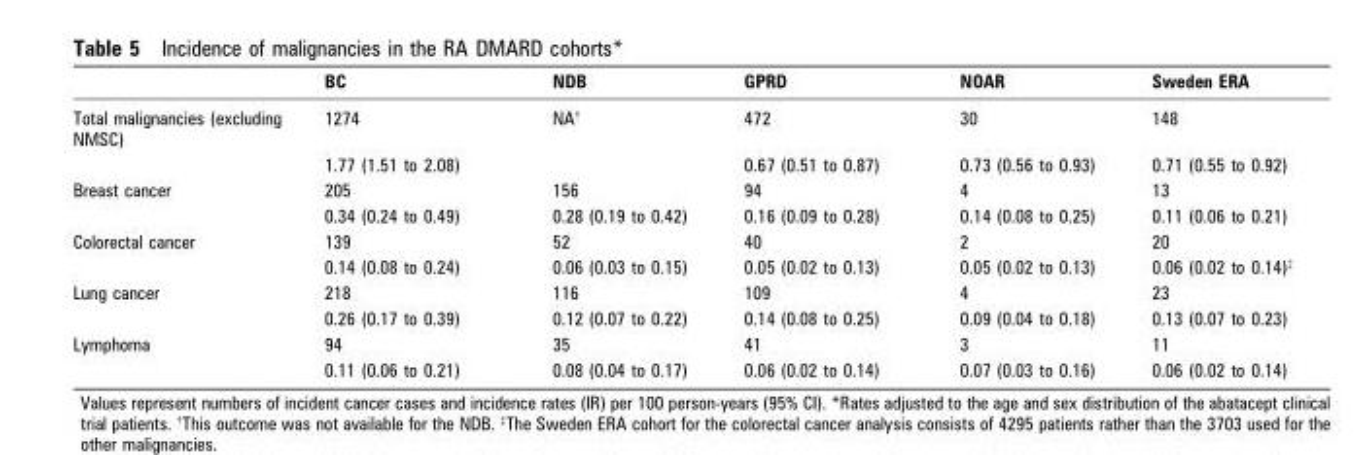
<table><thead><tr><td></td><td>BC</td><td>NDB</td><td>GPRD</td><td>NOAR</td><td>Sweden ERA</td></tr></thead><tbody><tr><td rowspan="2">Total malignancies (excluding NMSC)</td><td>1274</td><td>NA<sup>†</sup></td><td>472</td><td>30</td><td>148</td></tr><tr><td>1.77 (1.51 to 2.08)</td><td></td><td>0.67 (0.51 to 0.87)</td><td>0.73 (0.56 to 0.93)</td><td>0.71 (0.55 to 0.92)</td></tr><tr><td rowspan="2">Breast cancer</td><td>205</td><td>156</td><td>94</td><td>4</td><td>13</td></tr><tr><td>0.34 (0.24 to 0.49)</td><td>0.28 (0.19 to 0.42)</td><td>0.16 (0.09 to 0.28)</td><td>0.14 (0.08 to 0.25)</td><td>0.11 (0.06 to 0.21)</td></tr><tr><td rowspan="2">Colorectal cancer</td><td>139</td><td>52</td><td>40</td><td>2</td><td>20</td></tr><tr><td>0.14 (0.08 to 0.24)</td><td>0.06 (0.03 to 0.15)</td><td>0.05 (0.02 to 0.13)</td><td>0.05 (0.02 to 0.13)</td><td>0.06 (0.02 to 0.14)<sup>‡</sup></td></tr><tr><td rowspan="2">Lung cancer</td><td>218</td><td>116</td><td>109</td><td>4</td><td>23</td></tr><tr><td>0.26 (0.17 to 0.39)</td><td>0.12 (0.07 to 0.22)</td><td>0.14 (0.08 to 0.25)</td><td>0.09 (0.04 to 0.18)</td><td>0.13 (0.07 to 0.23)</td></tr><tr><td rowspan="2">Lymphoma</td><td>94</td><td>35</td><td>41</td><td>3</td><td>11</td></tr><tr><td>0.11 (0.06 to 0.21)</td><td>0.08 (0.04 to 0.17)</td><td>0.06 (0.02 to 0.14)</td><td>0.07 (0.03 to 0.16)</td><td>0.06 (0.02 to 0.14)</td></tr></tbody></table>